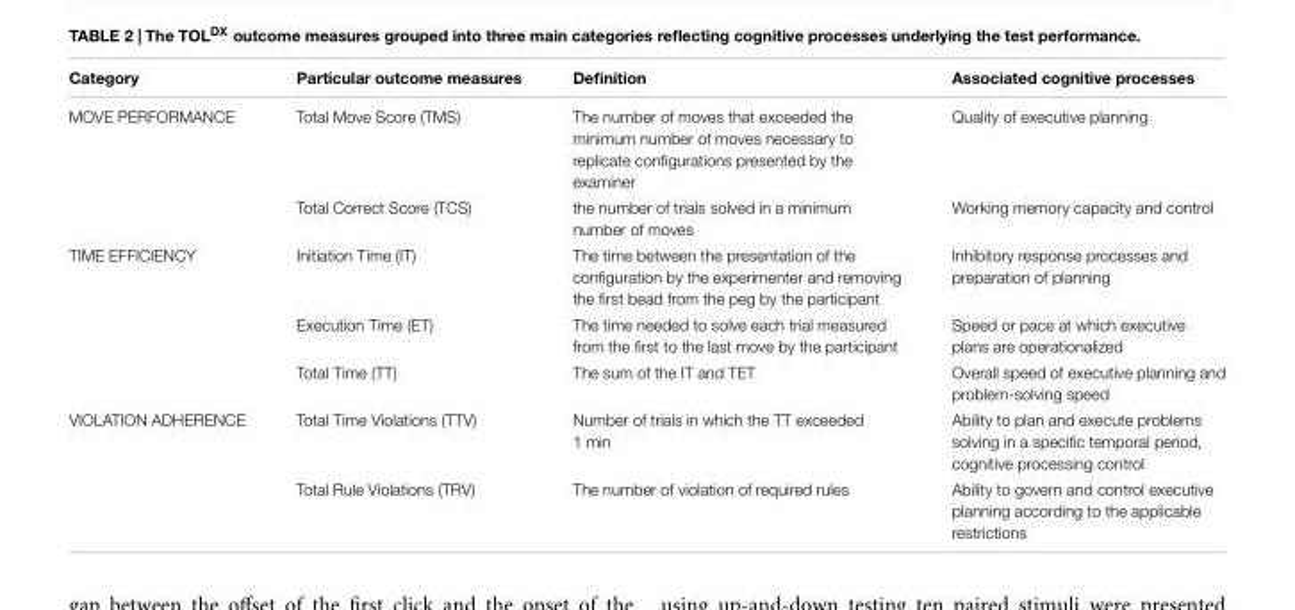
<table><thead><tr><td>Category</td><td>Particular outcome measures</td><td>Definition</td><td>Associated cognitive processes</td></tr></thead><tbody><tr><td rowspan="2">MOVE PERFORMANCE</td><td>Total Move Score (TMS)</td><td>The number of moves that exceeded the minimum number of moves necessary to replicate configurations presented by the examiner</td><td>Quality of executive planning</td></tr><tr><td>Total Correct Score (TCS)</td><td>the number of trials solved in a minimum number of moves</td><td>Working memory capacity and control</td></tr><tr><td rowspan="3">TIME EFFICIENCY</td><td>Initiation Time (IT)</td><td>The time between the presentation of the configuration by the experimenter and removing the first bead from the peg by the participant</td><td>Inhibitory response processes and preparation of planning</td></tr><tr><td>Execution Time (ET)</td><td>The time needed to solve each trial measured from the first to the last move by the participant</td><td>Speed or pace at which executive plans are operationalized</td></tr><tr><td>Total Time (TT)</td><td>The sum of the IT and TET</td><td>Overall speed of executive planning and problem-solving speed</td></tr><tr><td rowspan="2">VIOLATION ADHERENCE</td><td>Total Time Violations (TTV)</td><td>Number of trials in which the TT exceeded 1 min</td><td>Ability to plan and execute problems solving in a specific temporal period, cognitive processing control</td></tr><tr><td>Total Rule Violations (TRV)</td><td>The number of violation of required rules</td><td>Ability to govern and control executive planning according to the applicable restrictions</td></tr></tbody></table>